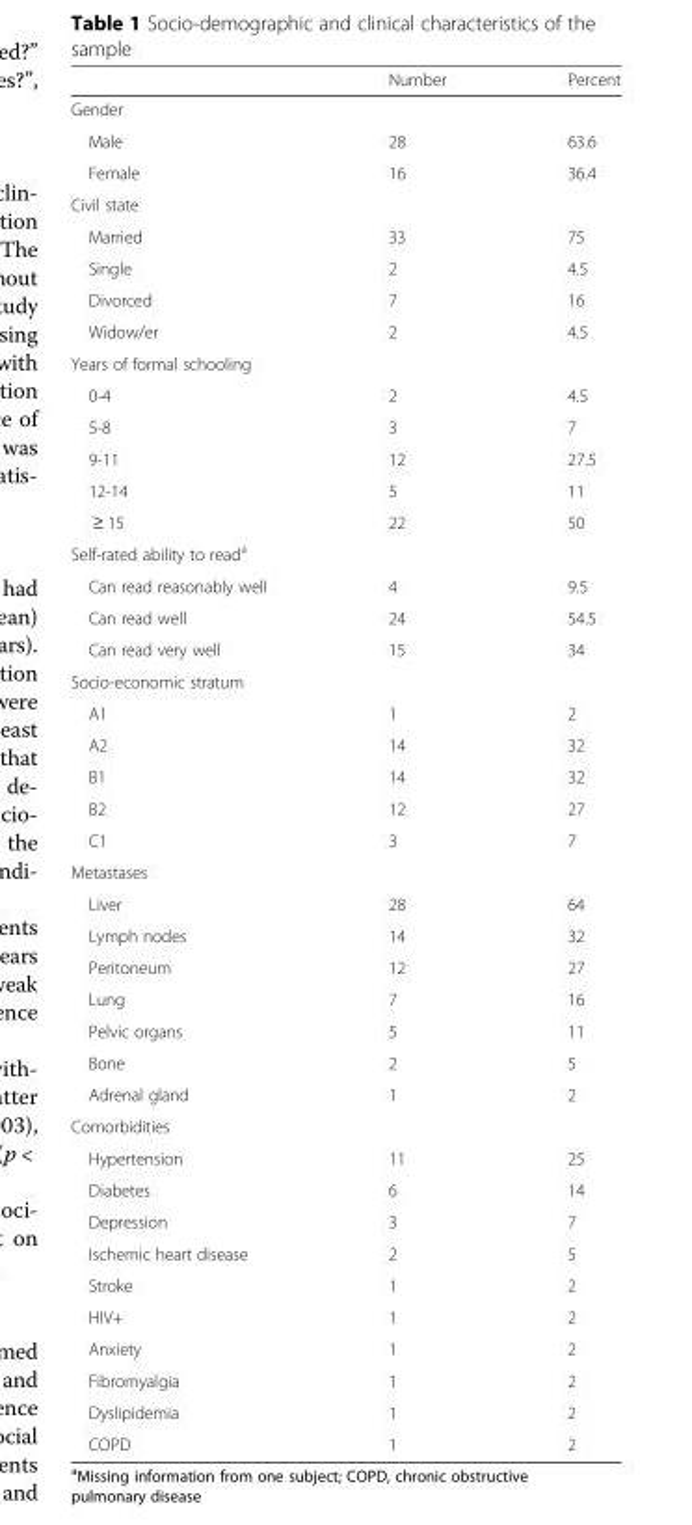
<table><thead><tr><td></td><td>Number</td><td>Percent</td></tr></thead><tbody><tr><td colspan="3">Gender</td></tr><tr><td>Male</td><td>28</td><td>63.6</td></tr><tr><td>Female</td><td>16</td><td>36.4</td></tr><tr><td colspan="3">Civil state</td></tr><tr><td>Married</td><td>33</td><td>75</td></tr><tr><td>Single</td><td>2</td><td>4.5</td></tr><tr><td>Divorced</td><td>7</td><td>16</td></tr><tr><td>Widow/er</td><td>2</td><td>4.5</td></tr><tr><td colspan="3">Years of formal schooling</td></tr><tr><td>0-4</td><td>2</td><td>4.5</td></tr><tr><td>5-8</td><td>3</td><td>7</td></tr><tr><td>9-11</td><td>12</td><td>27.5</td></tr><tr><td>12-14</td><td>5</td><td>11</td></tr><tr><td>≥ 15</td><td>22</td><td>50</td></tr><tr><td colspan="3">Self-rated ability to read<sup>a</sup></td></tr><tr><td>Can read reasonably well</td><td>4</td><td>9.5</td></tr><tr><td>Can read well</td><td>24</td><td>54.5</td></tr><tr><td>Can read very well</td><td>15</td><td>34</td></tr><tr><td colspan="3">Socio-economic stratum</td></tr><tr><td>A1</td><td>1</td><td>2</td></tr><tr><td>A2</td><td>14</td><td>32</td></tr><tr><td>B1</td><td>14</td><td>32</td></tr><tr><td>B2</td><td>12</td><td>27</td></tr><tr><td>C1</td><td>3</td><td>7</td></tr><tr><td colspan="3">Metastases</td></tr><tr><td>Liver</td><td>28</td><td>64</td></tr><tr><td>Lymph nodes</td><td>14</td><td>32</td></tr><tr><td>Peritoneum</td><td>12</td><td>27</td></tr><tr><td>Lung</td><td>7</td><td>16</td></tr><tr><td>Pelvic organs</td><td>5</td><td>11</td></tr><tr><td>Bone</td><td>2</td><td>5</td></tr><tr><td>Adrenal gland</td><td>1</td><td>2</td></tr><tr><td colspan="3">Comorbidities</td></tr><tr><td>Hypertension</td><td>11</td><td>25</td></tr><tr><td>Diabetes</td><td>6</td><td>14</td></tr><tr><td>Depression</td><td>3</td><td>7</td></tr><tr><td>Ischemic heart disease</td><td>2</td><td>5</td></tr><tr><td>Stroke</td><td>1</td><td>2</td></tr><tr><td>HIV+</td><td>1</td><td>2</td></tr><tr><td>Anxiety</td><td>1</td><td>2</td></tr><tr><td>Fibromyalgia</td><td>1</td><td>2</td></tr><tr><td>Dyslipidemia</td><td>1</td><td>2</td></tr><tr><td>COPD</td><td>1</td><td>2</td></tr></tbody></table>